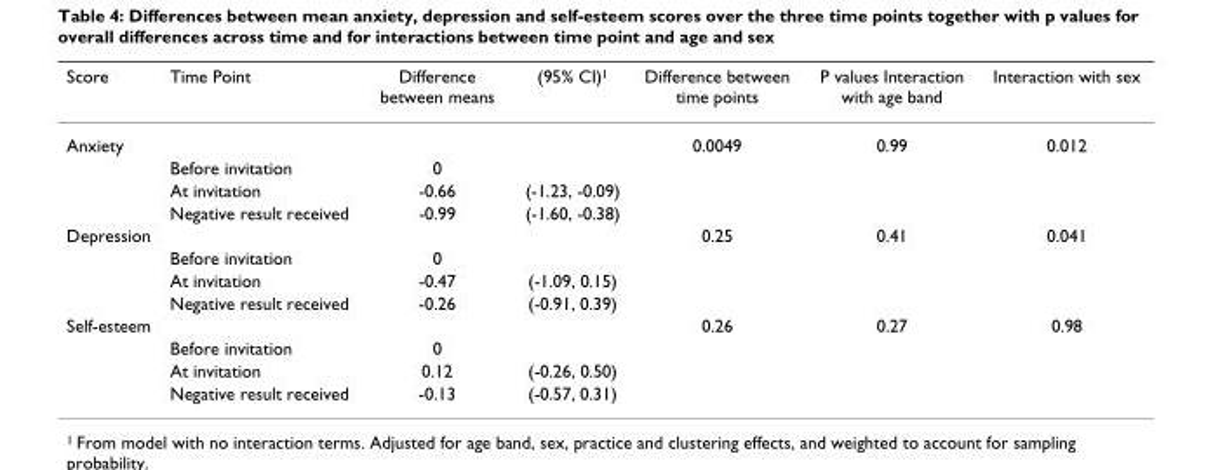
<table><thead><tr><td>Score</td><td>Time Point</td><td>Difference between means</td><td>(95% CI)1</td><td>Difference between time points</td><td>P values Interaction with age band</td><td>Interaction with sex</td></tr></thead><tbody><tr><td rowspan="4">Anxiety</td><td></td><td></td><td></td><td>0.0049</td><td>0.99</td><td>0.012</td></tr><tr><td>Before invitation</td><td>0</td><td></td><td></td><td></td><td></td></tr><tr><td>At invitation</td><td>-0.66</td><td>(-1.23, -0.09)</td><td></td><td></td><td></td></tr><tr><td>Negative result received</td><td>-0.99</td><td>(-1.60, -0.38)</td><td></td><td></td><td></td></tr><tr><td rowspan="4">Depression</td><td></td><td></td><td></td><td>0.25</td><td>0.41</td><td>0.041</td></tr><tr><td>Before invitation</td><td>0</td><td></td><td></td><td></td><td></td></tr><tr><td>At invitation</td><td>-0.47</td><td>(-1.09, 0.15)</td><td></td><td></td><td></td></tr><tr><td>Negative result received</td><td>-0.26</td><td>(-0.91, 0.39)</td><td></td><td></td><td></td></tr><tr><td rowspan="4">Self-esteem</td><td></td><td></td><td></td><td>0.26</td><td>0.27</td><td>0.98</td></tr><tr><td>Before invitation</td><td>0</td><td></td><td></td><td></td><td></td></tr><tr><td>At invitation</td><td>0.12</td><td>(-0.26, 0.50)</td><td></td><td></td><td></td></tr><tr><td>Negative result received</td><td>-0.13</td><td>(-0.57, 0.31)</td><td></td><td></td><td></td></tr></tbody></table>